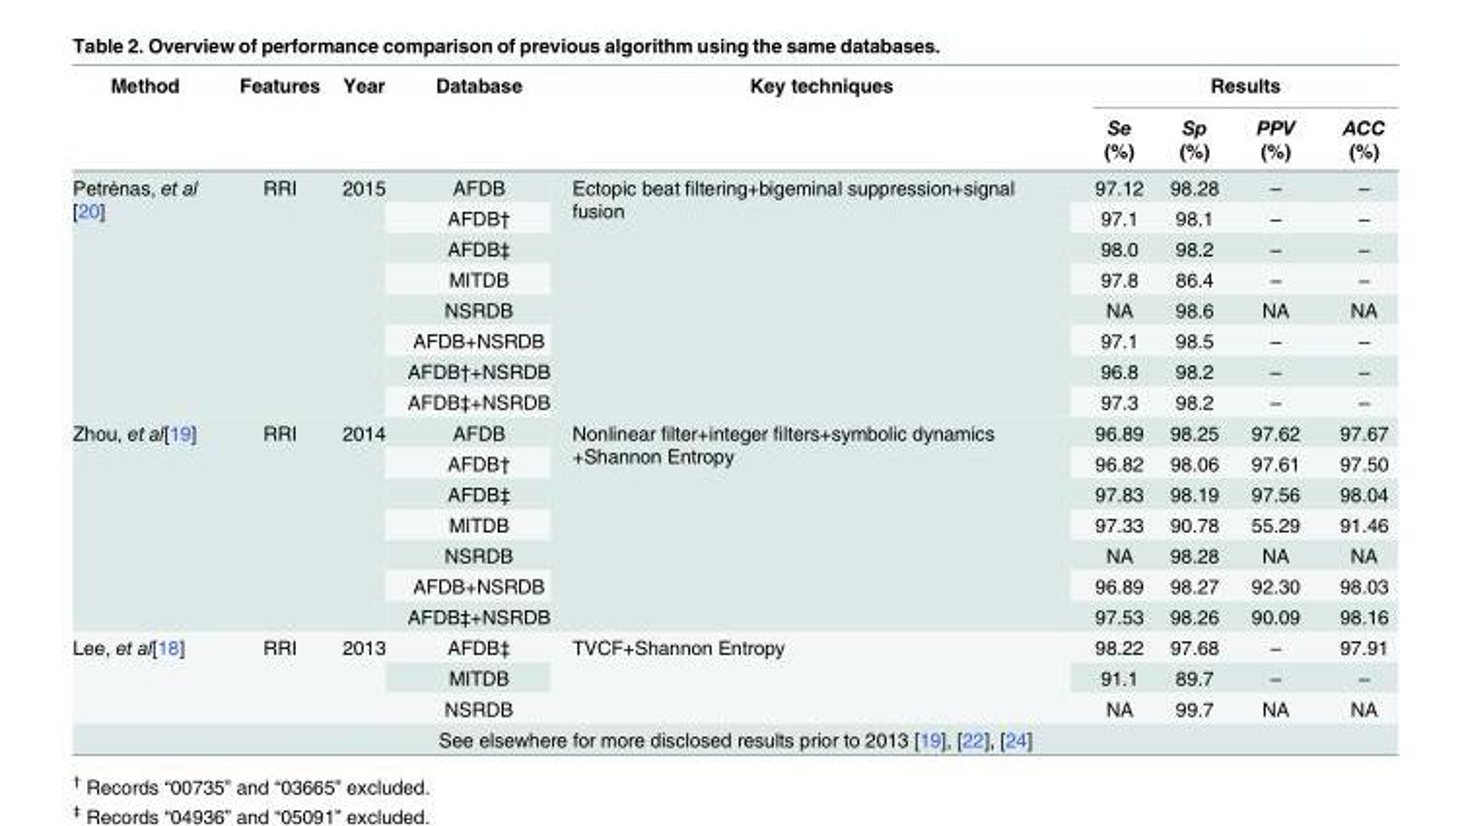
<table><thead><tr><td rowspan="2">Method</td><td rowspan="2">Features</td><td rowspan="2">Year</td><td rowspan="2">Database</td><td rowspan="2">Key techniques</td><td colspan="4">Results</td></tr><tr><td>Se (%)</td><td>Sp (%)</td><td>PPV (%)</td><td>ACC (%)</td></tr></thead><tbody><tr><td rowspan="8">Petrėnas, et al [20]</td><td rowspan="8">RRI</td><td rowspan="8">2015</td><td>AFDB</td><td rowspan="8">Ectopic beat filtering+bigeminal suppression+signal fusion</td><td>97.12</td><td>98.28</td><td>–</td><td>–</td></tr><tr><td>AFDB†</td><td>97.1</td><td>98.1</td><td>–</td><td>–</td></tr><tr><td>AFDB‡</td><td>98.0</td><td>98.2</td><td>–</td><td>–</td></tr><tr><td>MITDB</td><td>97.8</td><td>86.4</td><td>–</td><td>–</td></tr><tr><td>NSRDB</td><td>NA</td><td>98.6</td><td>NA</td><td>NA</td></tr><tr><td>AFDB+NSRDB</td><td>97.1</td><td>98.5</td><td>–</td><td>–</td></tr><tr><td>AFDB†+NSRDB</td><td>96.8</td><td>98.2</td><td>–</td><td>–</td></tr><tr><td>AFDB‡+NSRDB</td><td>97.3</td><td>98.2</td><td>–</td><td>–</td></tr><tr><td rowspan="7">Zhou, et al[19]</td><td rowspan="7">RRI</td><td rowspan="7">2014</td><td>AFDB</td><td rowspan="7">Nonlinear filter+integer filters+symbolic dynamics +Shannon Entropy</td><td>96.89</td><td>98.25</td><td>97.62</td><td>97.67</td></tr><tr><td>AFDB†</td><td>96.82</td><td>98.06</td><td>97.61</td><td>97.50</td></tr><tr><td>AFDB‡</td><td>97.83</td><td>98.19</td><td>97.56</td><td>98.04</td></tr><tr><td>MITDB</td><td>97.33</td><td>90.78</td><td>55.29</td><td>91.46</td></tr><tr><td>NSRDB</td><td>NA</td><td>98.28</td><td>NA</td><td>NA</td></tr><tr><td>AFDB+NSRDB</td><td>96.89</td><td>98.27</td><td>92.30</td><td>98.03</td></tr><tr><td>AFDB‡+NSRDB</td><td>97.53</td><td>98.26</td><td>90.09</td><td>98.16</td></tr><tr><td rowspan="3">Lee, et al[18]</td><td rowspan="3">RRI</td><td rowspan="3">2013</td><td>AFDB‡</td><td rowspan="3">TVCF+Shannon Entropy</td><td>98.22</td><td>97.68</td><td>–</td><td>97.91</td></tr><tr><td>MITDB</td><td>91.1</td><td>89.7</td><td>–</td><td>–</td></tr><tr><td>NSRDB</td><td>NA</td><td>99.7</td><td>NA</td><td>NA</td></tr><tr><td colspan="9">See elsewhere for more disclosed results prior to 2013 [19], [22], [24]</td></tr></tbody></table>